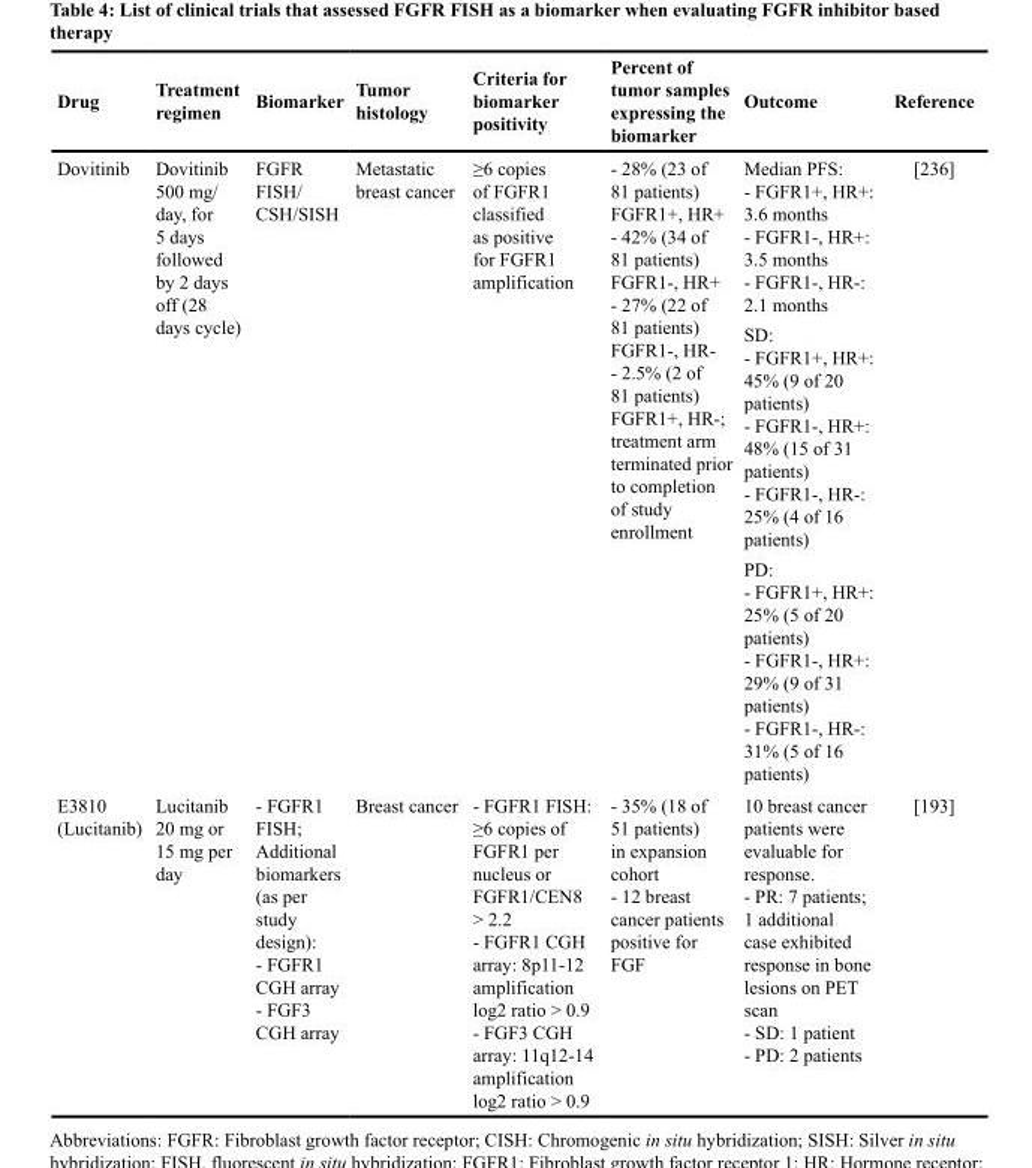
<table><thead><tr><td>Drug</td><td>Treatment regimen</td><td>Biomarker</td><td>Tumor histology</td><td>Criteria for biomarker positivity</td><td>Percent of tumor samples expressing the biomarker</td><td>Outcome</td><td>Reference</td></tr></thead><tbody><tr><td>Dovitinib</td><td>Dovitinib 500 mg/ day, for 5 days followed by 2 days off (28 days cycle)</td><td>FGFR FISH/ CSH/SISH</td><td>Metastatic breast cancer</td><td>≥6 copies of FGFR1 classified as positive for FGFR1 amplification</td><td>- 28% (23 of 81 patients) FGFR1+, HR+ - 42% (34 of 81 patients) FGFR1-, HR+ - 27% (22 of 81 patients) FGFR1-, HR- - 2.5% (2 of 81 patients) FGFR1+, HR-; treatment arm terminated prior to completion of study enrollment</td><td>Median PFS: - FGFR1+, HR+: 3.6 months - FGFR1-, HR+: 3.5 months - FGFR1-, HR-: 2.1 months SD: - FGFR1+, HR+: 45% (9 of 20 patients) - FGFR1-, HR+: 48% (15 of 31 patients) - FGFR1-, HR-: 25% (4 of 16 patients) PD: - FGFR1+, HR+: 25% (5 of 20 patients) - FGFR1-, HR+: 29% (9 of 31 patients) - FGFR1-, HR-: 31% (5 of 16 patients)</td><td>[236]</td></tr><tr><td>E3810 (Lucitanib)</td><td>Lucitanib 20 mg or 15 mg per day</td><td>- FGFR1 FISH; Additional biomarkers (as per study design): - FGFR1 CGH array - FGF3 CGH array</td><td>Breast cancer</td><td>- FGFR1 FISH: ≥6 copies of FGFR1 per nucleus or FGFR1/CEN8 &gt; 2.2 - FGFR1 CGH array: 8p11-12 amplification log2 ratio &gt; 0.9 - FGF3 CGH array: 11q12-14 amplification log2 ratio &gt; 0.9</td><td>- 35% (18 of 51 patients) in expansion cohort - 12 breast cancer patients positive for FGF</td><td>10 breast cancer patients were evaluable for response. - PR: 7 patients; 1 additional case exhibited response in bone lesions on PET scan - SD: 1 patient - PD: 2 patients</td><td>[193]</td></tr></tbody></table>